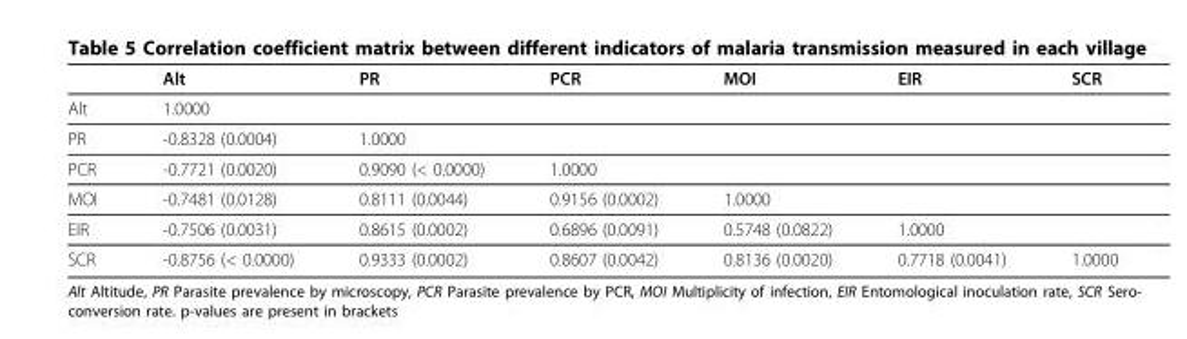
<table><thead><tr><td></td><td>Alt</td><td>PR</td><td>PCR</td><td>MOI</td><td>EIR</td><td>SCR</td></tr></thead><tbody><tr><td>Alt</td><td>1.0000</td><td></td><td></td><td></td><td></td><td></td></tr><tr><td>PR</td><td>-0.8328 (0.0004)</td><td>1.0000</td><td></td><td></td><td></td><td></td></tr><tr><td>PCR</td><td>-0.7721 (0.0020)</td><td>0.9090 (&lt; 0.0000)</td><td>1.0000</td><td></td><td></td><td></td></tr><tr><td>MOI</td><td>-0.7481 (0.0128)</td><td>0.8111 (0.0044)</td><td>0.9156 (0.0002)</td><td>1.0000</td><td></td><td></td></tr><tr><td>EIR</td><td>-0.7506 (0.0031)</td><td>0.8615 (0.0002)</td><td>0.6896 (0.0091)</td><td>0.5748 (0.0822)</td><td>1.0000</td><td></td></tr><tr><td>SCR</td><td>-0.8756 (&lt; 0.0000)</td><td>0.9333 (0.0002)</td><td>0.8607 (0.0042)</td><td>0.8136 (0.0020)</td><td>0.7718 (0.0041)</td><td>1.0000</td></tr></tbody></table>